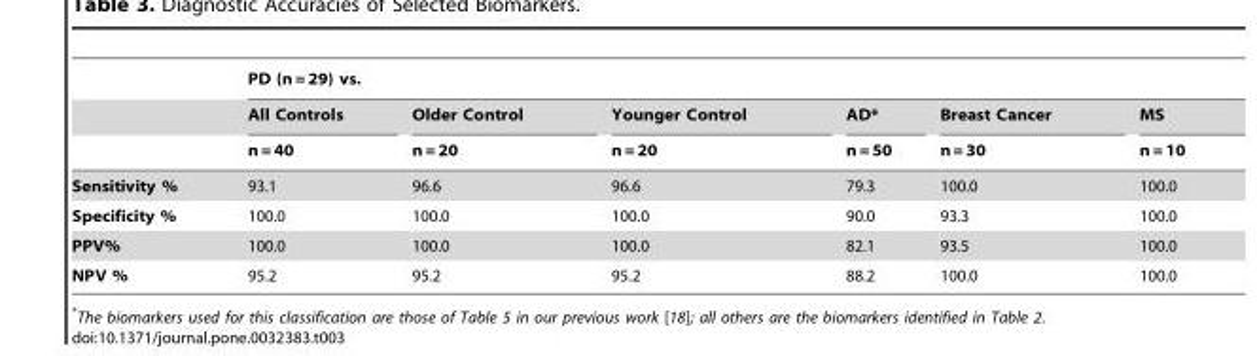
<table><thead><tr><td rowspan="3"></td><td colspan="6">PD (n = 29) vs.</td></tr><tr><td rowspan="2">All Controls n = 40</td><td rowspan="2">Older Control n = 20</td><td rowspan="2">Younger Control n = 20</td><td rowspan="2">AD* n = 50</td><td rowspan="2">Breast Cancer n = 30</td><td rowspan="2">MS n = 10</td></tr><tr></tr></thead><tbody><tr><td>Sensitivity %</td><td>93.1</td><td>96.6</td><td>96.6</td><td>79.3</td><td>100.0</td><td>100.0</td></tr><tr><td>Specificity %</td><td>100.0</td><td>100.0</td><td>100.0</td><td>90.0</td><td>93.3</td><td>100.0</td></tr><tr><td>PPV%</td><td>100.0</td><td>100.0</td><td>100.0</td><td>82.1</td><td>93.5</td><td>100.0</td></tr><tr><td>NPV %</td><td>95.2</td><td>95.2</td><td>95.2</td><td>88.2</td><td>100.0</td><td>100.0</td></tr></tbody></table>